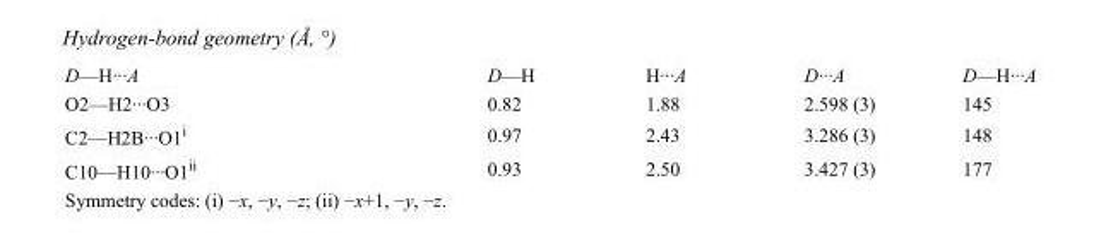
<table><tbody><tr><td>D—H···A</td><td>D—H</td><td>H···A</td><td>D···A</td><td>D—H···A</td></tr><tr><td>O2—H2···O3</td><td>0.82</td><td>1.88</td><td>2.598 (3)</td><td>145</td></tr><tr><td>C2—H2B···O1<sup>i</sup></td><td>0.97</td><td>2.43</td><td>3.286 (3)</td><td>148</td></tr><tr><td>C10—H10···O1<sup>ii</sup></td><td>0.93</td><td>2.50</td><td>3.427 (3)</td><td>177</td></tr></tbody></table>